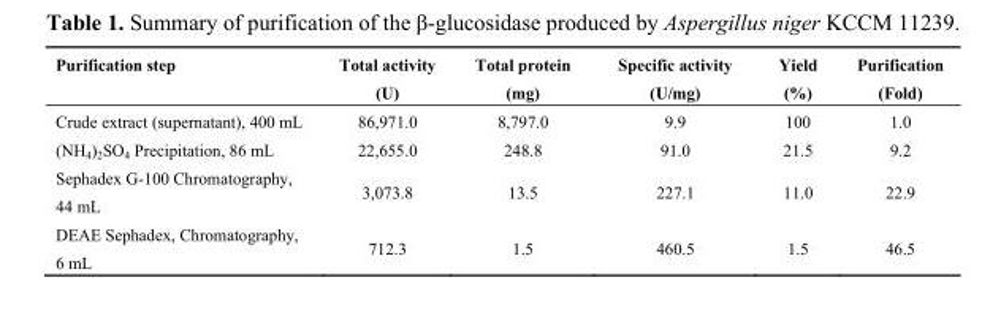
<table><thead><tr><td>Purification step</td><td>Total activity (U)</td><td>Total protein (mg)</td><td>Specific activity (U/mg)</td><td>Yield (%)</td><td>Purification (Fold)</td></tr></thead><tbody><tr><td>Crude extract (supernatant), 400 mL</td><td>86,971.0</td><td>8,797.0</td><td>9.9</td><td>100</td><td>1.0</td></tr><tr><td>(NH<sub>4</sub>)<sub>2</sub>SO<sub>4</sub> Precipitation, 86 mL</td><td>22,655.0</td><td>248.8</td><td>91.0</td><td>21.5</td><td>9.2</td></tr><tr><td>Sephadex G-100 Chromatography, 44 mL</td><td>3,073.8</td><td>13.5</td><td>227.1</td><td>11.0</td><td>22.9</td></tr><tr><td>DEAE Sephadex, Chromatography, 6 mL</td><td>712.3</td><td>1.5</td><td>460.5</td><td>1.5</td><td>46.5</td></tr></tbody></table>